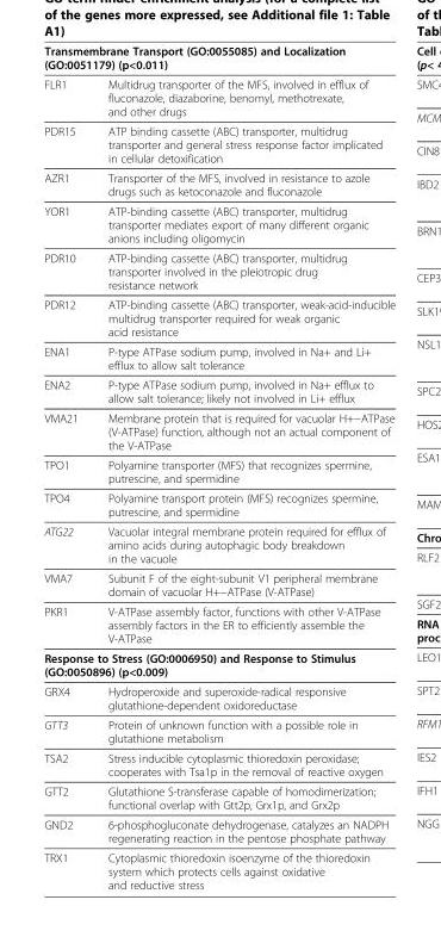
<table><thead><tr><td colspan="2">Transmembrane Transport (GO:0055085) and Localization (GO:0051179) (p&lt;0.011)</td></tr><tr><td>FLR1</td><td>Multidrug transporter of the MFS, involved in efflux of fluconazole, diazaborine, benomyl, methotrexate, and other drugs</td></tr></thead><tbody><tr><td>PDR15</td><td>ATP binding cassette (ABC) transporter, multidrug transporter and general stress response factor implicated in cellular detoxification</td></tr><tr><td>AZR1</td><td>Transporter of the MFS, involved in resistance to azole drugs such as ketoconazole and fluconazole</td></tr><tr><td>YOR1</td><td>ATP-binding cassette (ABC) transporter, multidrug transporter mediates export of many different organic anions including oligomycin</td></tr><tr><td>PDR10</td><td>ATP-binding cassette (ABC) transporter, multidrug transporter involved in the pleiotropic drug resistance network</td></tr><tr><td>PDR12</td><td>ATP-binding cassette (ABC) transporter, weak-acid-inducible multidrug transporter required for weak organic acid resistance</td></tr><tr><td>ENA1</td><td>P-type ATPase sodium pump, involved in Na+ and Li+ efflux to allow salt tolerance</td></tr><tr><td>ENA2</td><td>P-type ATPase sodium pump, involved in Na+ efflux to allow salt tolerance; likely not involved in Li+ efflux</td></tr><tr><td>VMA21</td><td>Membrane protein that is required for vacuolar H+−ATPase (V-ATPase) function, although not an actual component of the V-ATPase</td></tr><tr><td>TPO1</td><td>Polyamine transporter (MFS) that recognizes spermine, putrescine, and spermidine</td></tr><tr><td>TPO4</td><td>Polyamine transport protein (MFS) recognizes spermine, putrescine, and spermidine</td></tr><tr><td>ATG22</td><td>Vacuolar integral membrane protein required for efflux of amino acids during autophagic body breakdown in the vacuole</td></tr><tr><td>VMA7</td><td>Subunit F of the eight-subunit V1 peripheral membrane domain of vacuolar H+−ATPase (V-ATPase)</td></tr><tr><td>PKR1</td><td>V-ATPase assembly factor, functions with other V-ATPase assembly factors in the ER to efficiently assemble the V-ATPase</td></tr><tr><td colspan="2">Response to Stress (GO:0006950) and Response to Stimulus (GO:0050896) (p&lt;0.009)</td></tr><tr><td>GRX4</td><td>Hydroperoxide and superoxide-radical responsive glutathione-dependent oxidoreductase</td></tr><tr><td>GTT3</td><td>Protein of unknown function with a possible role in glutathione metabolism</td></tr><tr><td>TSA2</td><td>Stress inducible cytoplasmic thioredoxin peroxidase; cooperates with Tsa1p in the removal of reactive oxygen</td></tr><tr><td>GTT2</td><td>Glutathione S-transferase capable of homodimerization; functional overlap with Gtt2p, Grx1p, and Grx2p</td></tr><tr><td>GND2</td><td>6-phosphogluconate dehydrogenase, catalyzes an NADPH regenerating reaction in the pentose phosphate pathway</td></tr><tr><td>TRX1</td><td>Cytoplasmic thioredoxin isoenzyme of the thioredoxin system which protects cells against oxidative and reductive stress</td></tr></tbody></table>